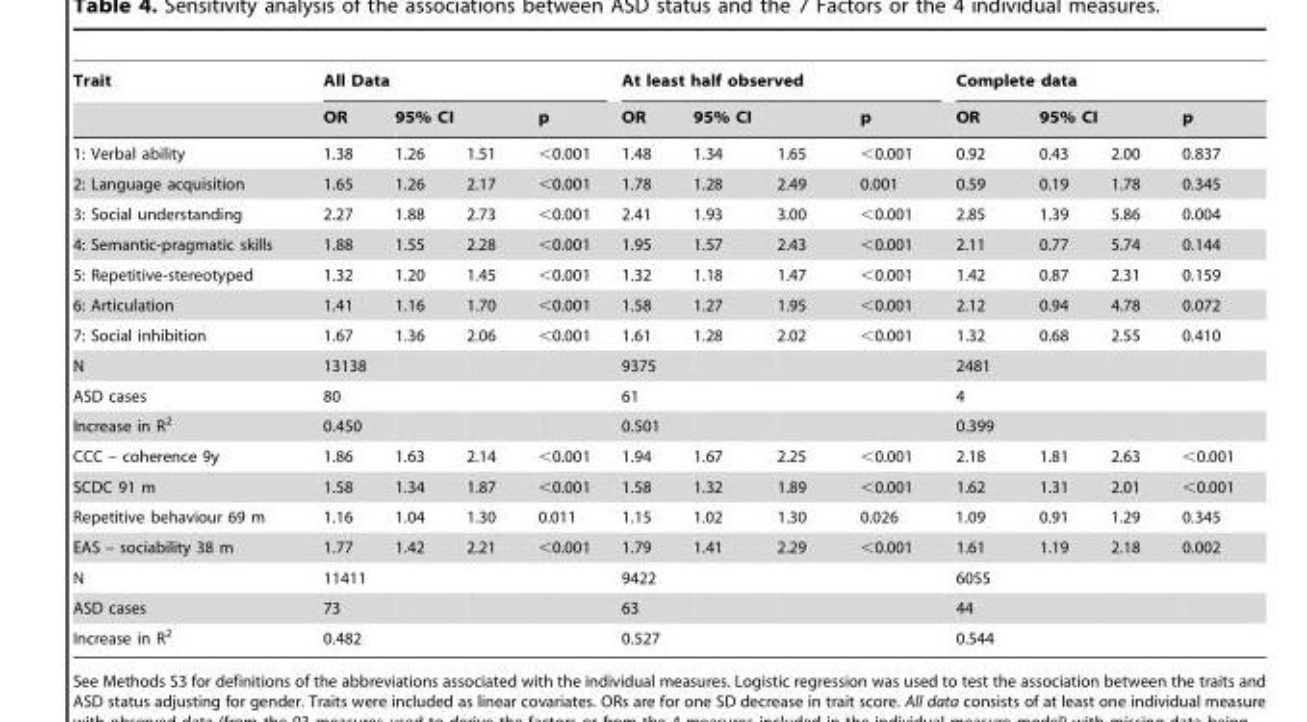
<table><thead><tr><td rowspan="3">Trait 1: Verbal ability</td><td colspan="4">All Data</td><td colspan="4">At least half observed</td><td colspan="4">Complete data</td></tr><tr><td rowspan="2">OR 1.38</td><td colspan="2">95% CI</td><td rowspan="2">p &lt;0.001</td><td rowspan="2">OR 1.48</td><td colspan="2">95% CI</td><td rowspan="2">p &lt;0.001</td><td rowspan="2">OR 0.92</td><td colspan="2">95% CI</td><td rowspan="2">p 0.837</td></tr><tr><td>1.26</td><td>1.51</td><td>1.34</td><td>1.65</td><td>0.43</td><td>2.00</td></tr></thead><tbody><tr><td>2: Language acquisition</td><td>1.65</td><td>1.26</td><td>2.17</td><td>&lt;0.001</td><td>1.78</td><td>1.28</td><td>2.49</td><td>0.001</td><td>0.59</td><td>0.19</td><td>1.78</td><td>0.345</td></tr><tr><td>3: Social understanding</td><td>2.27</td><td>1.88</td><td>2.73</td><td>&lt;0.001</td><td>2.41</td><td>1.93</td><td>3.00</td><td>&lt;0.001</td><td>2.85</td><td>1.39</td><td>5.86</td><td>0.004</td></tr><tr><td>4: Semantic-pragmatic skills</td><td>1.88</td><td>1.55</td><td>2.28</td><td>&lt;0.001</td><td>1.95</td><td>1.57</td><td>2.43</td><td>&lt;0.001</td><td>2.11</td><td>0.77</td><td>5.74</td><td>0.144</td></tr><tr><td>5: Repetitive-stereotyped</td><td>1.32</td><td>1.20</td><td>1.45</td><td>&lt;0.001</td><td>1.32</td><td>1.18</td><td>1.47</td><td>&lt;0.001</td><td>1.42</td><td>0.87</td><td>2.31</td><td>0.159</td></tr><tr><td>6: Articulation</td><td>1.41</td><td>1.16</td><td>1.70</td><td>&lt;0.001</td><td>1.58</td><td>1.27</td><td>1.95</td><td>&lt;0.001</td><td>2.12</td><td>0.94</td><td>4.78</td><td>0.072</td></tr><tr><td>7: Social inhibition</td><td>1.67</td><td>1.36</td><td>2.06</td><td>&lt;0.001</td><td>1.61</td><td>1.28</td><td>2.02</td><td>&lt;0.001</td><td>1.32</td><td>0.68</td><td>2.55</td><td>0.410</td></tr><tr><td>N</td><td>13138</td><td></td><td></td><td></td><td>9375</td><td></td><td></td><td></td><td>2481</td><td></td><td></td><td></td></tr><tr><td>ASD cases</td><td>80</td><td></td><td></td><td></td><td>61</td><td></td><td></td><td></td><td>4</td><td></td><td></td><td></td></tr><tr><td>Increase in R<sup>2</sup></td><td>0.450</td><td></td><td></td><td></td><td>0.501</td><td></td><td></td><td></td><td>0.399</td><td></td><td></td><td></td></tr><tr><td>CCC – coherence 9y</td><td>1.86</td><td>1.63</td><td>2.14</td><td>&lt;0.001</td><td>1.94</td><td>1.67</td><td>2.25</td><td>&lt;0.001</td><td>2.18</td><td>1.81</td><td>2.63</td><td>&lt;0.001</td></tr><tr><td>SCDC 91 m</td><td>1.58</td><td>1.34</td><td>1.87</td><td>&lt;0.001</td><td>1.58</td><td>1.32</td><td>1.89</td><td>&lt;0.001</td><td>1.62</td><td>1.31</td><td>2.01</td><td>&lt;0.001</td></tr><tr><td>Repetitive behaviour 69 m</td><td>1.16</td><td>1.04</td><td>1.30</td><td>0.011</td><td>1.15</td><td>1.02</td><td>1.30</td><td>0.026</td><td>1.09</td><td>0.91</td><td>1.29</td><td>0.345</td></tr><tr><td>EAS – sociability 38 m</td><td>1.77</td><td>1.42</td><td>2.21</td><td>&lt;0.001</td><td>1.79</td><td>1.41</td><td>2.29</td><td>&lt;0.001</td><td>1.61</td><td>1.19</td><td>2.18</td><td>0.002</td></tr><tr><td>N</td><td>11411</td><td></td><td></td><td></td><td>9422</td><td></td><td></td><td></td><td>6055</td><td></td><td></td><td></td></tr><tr><td>ASD cases</td><td>73</td><td></td><td></td><td></td><td>63</td><td></td><td></td><td></td><td>44</td><td></td><td></td><td></td></tr><tr><td>Increase in R<sup>2</sup></td><td>0.482</td><td></td><td></td><td></td><td>0.527</td><td></td><td></td><td></td><td>0.544</td><td></td><td></td><td></td></tr></tbody></table>